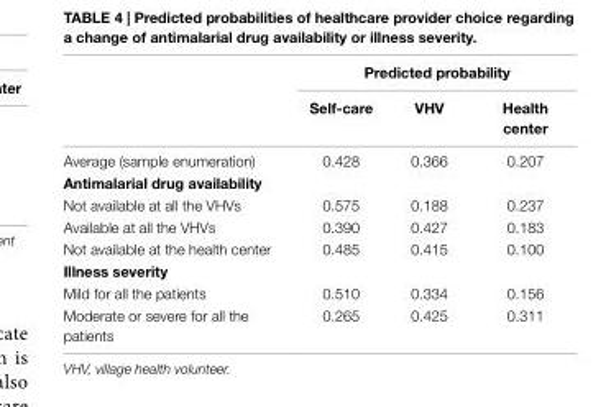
<table><thead><tr><td rowspan="2"></td><td colspan="3">Predicted probability</td></tr><tr><td>self-care</td><td>VhV</td><td>health center</td></tr></thead><tbody><tr><td>Average (sample enumeration)</td><td>0.428</td><td>0.366</td><td>0.207</td></tr><tr><td colspan="4">antimalarial drug availability</td></tr><tr><td>Not available at all the VHVs</td><td>0.575</td><td>0.188</td><td>0.237</td></tr><tr><td>Available at all the VHVs</td><td>0.390</td><td>0.427</td><td>0.183</td></tr><tr><td>Not available at the health center</td><td>0.485</td><td>0.415</td><td>0.100</td></tr><tr><td colspan="4">illness severity</td></tr><tr><td>Mild for all the patients</td><td>0.510</td><td>0.334</td><td>0.156</td></tr><tr><td>Moderate or severe for all the patients</td><td>0.265</td><td>0.425</td><td>0.311</td></tr></tbody></table>